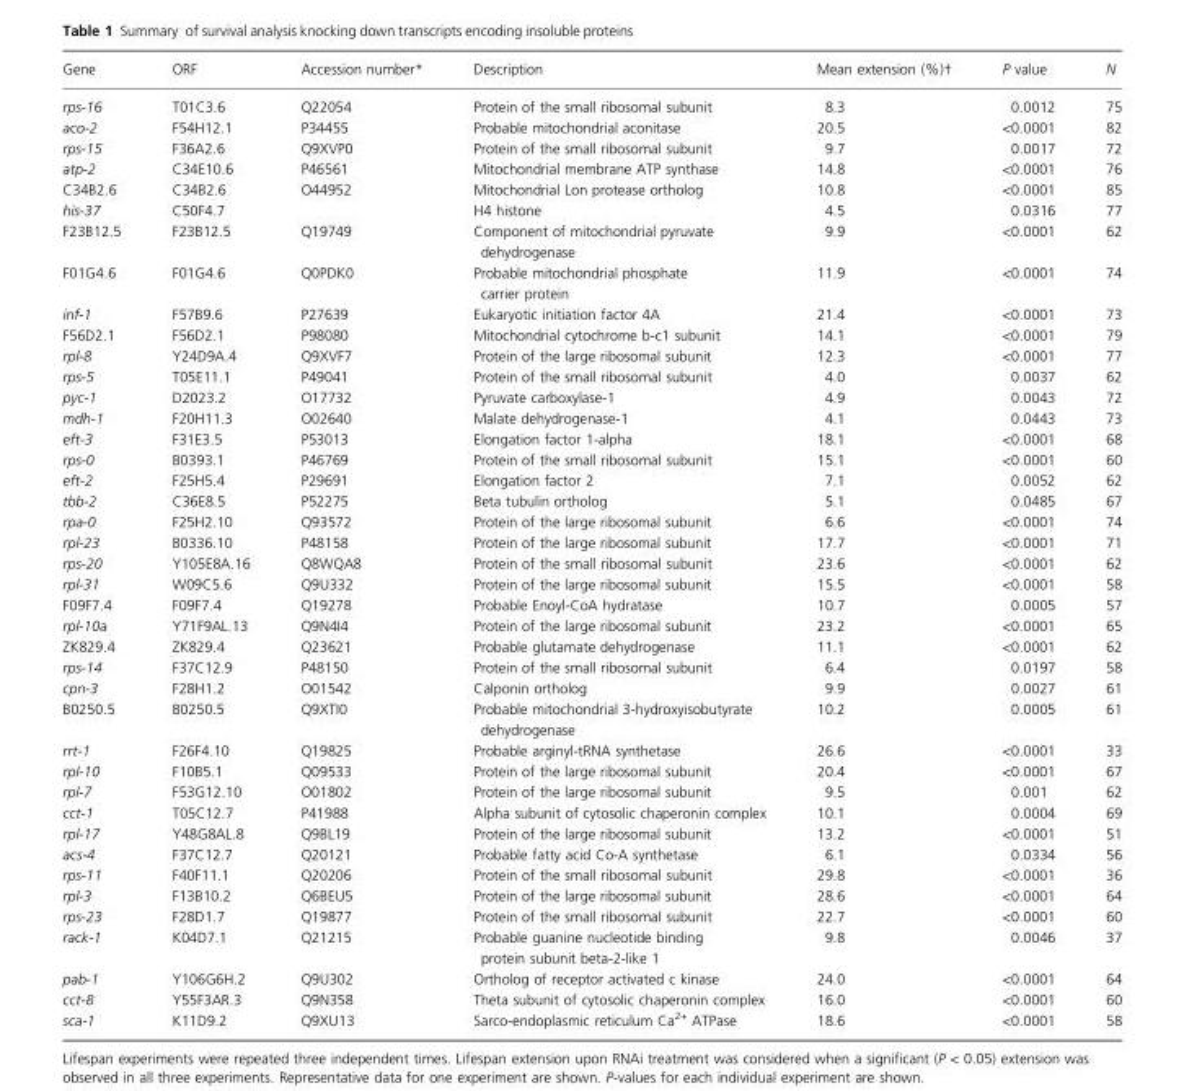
<table><thead><tr><td>Gene</td><td>ORF</td><td>Accession number*</td><td>Description</td><td>Mean extension (%)†</td><td>P value</td><td>N</td></tr></thead><tbody><tr><td>rps-16</td><td>T01C3.6</td><td>Q22054</td><td>Protein of the small ribosomal subunit</td><td>8.3</td><td>0.0012</td><td>75</td></tr><tr><td>aco-2</td><td>F54H12.1</td><td>P34455</td><td>Probable mitochondrial aconitase</td><td>20.5</td><td>&lt;0.0001</td><td>82</td></tr><tr><td>rps-15</td><td>F36A2.6</td><td>Q9XVP0</td><td>Protein of the small ribosomal subunit</td><td>9.7</td><td>0.0017</td><td>72</td></tr><tr><td>atp-2</td><td>C34E10.6</td><td>P46561</td><td>Mitochondrial membrane ATP synthase</td><td>14.8</td><td>&lt;0.0001</td><td>76</td></tr><tr><td>C34B2.6</td><td>C34B2.6</td><td>O44952</td><td>Mitochondrial Lon protease ortholog</td><td>10.8</td><td>&lt;0.0001</td><td>85</td></tr><tr><td>his-37</td><td>C50F4.7</td><td></td><td>H4 histone</td><td>4.5</td><td>0.0316</td><td>77</td></tr><tr><td>F23B12.5</td><td>F23B12.5</td><td>Q19749</td><td>Component of mitochondrial pyruvate dehydrogenase</td><td>9.9</td><td>&lt;0.0001</td><td>62</td></tr><tr><td>F01G4.6</td><td>F01G4.6</td><td>Q0PDK0</td><td>Probable mitochondrial phosphate carrier protein</td><td>11.9</td><td>&lt;0.0001</td><td>74</td></tr><tr><td>inf-1</td><td>F57B9.6</td><td>P27639</td><td>Eukaryotic initiation factor 4A</td><td>21.4</td><td>&lt;0.0001</td><td>73</td></tr><tr><td>F56D2.1</td><td>F56D2.1</td><td>P98080</td><td>Mitochondrial cytochrome b-c1 subunit</td><td>14.1</td><td>&lt;0.0001</td><td>79</td></tr><tr><td>rpl-8</td><td>Y24D9A.4</td><td>Q9XVF7</td><td>Protein of the large ribosomal subunit</td><td>12.3</td><td>&lt;0.0001</td><td>77</td></tr><tr><td>rps-5</td><td>T05E11.1</td><td>P49041</td><td>Protein of the small ribosomal subunit</td><td>4.0</td><td>0.0037</td><td>62</td></tr><tr><td>pyc-1</td><td>D2023.2</td><td>O17732</td><td>Pyruvate carboxylase-1</td><td>4.9</td><td>0.0043</td><td>72</td></tr><tr><td>mdh-1</td><td>F20H11.3</td><td>O02640</td><td>Malate dehydrogenase-1</td><td>4.1</td><td>0.0443</td><td>73</td></tr><tr><td>eft-3</td><td>F31E3.5</td><td>P53013</td><td>Elongation factor 1-alpha</td><td>18.1</td><td>&lt;0.0001</td><td>68</td></tr><tr><td>rps-0</td><td>B0393.1</td><td>P46769</td><td>Protein of the small ribosomal subunit</td><td>15.1</td><td>&lt;0.0001</td><td>60</td></tr><tr><td>eft-2</td><td>F25H5.4</td><td>P29691</td><td>Elongation factor 2</td><td>7.1</td><td>0.0052</td><td>62</td></tr><tr><td>tbb-2</td><td>C36E8.5</td><td>P52275</td><td>Beta tubulin ortholog</td><td>5.1</td><td>0.0485</td><td>67</td></tr><tr><td>rpa-0</td><td>F25H2.10</td><td>Q93572</td><td>Protein of the large ribosomal subunit</td><td>6.6</td><td>&lt;0.0001</td><td>74</td></tr><tr><td>rpl-23</td><td>B0336.10</td><td>P48158</td><td>Protein of the large ribosomal subunit</td><td>17.7</td><td>&lt;0.0001</td><td>71</td></tr><tr><td>rps-20</td><td>Y105E8A.16</td><td>Q8WQA8</td><td>Protein of the small ribosomal subunit</td><td>23.6</td><td>&lt;0.0001</td><td>62</td></tr><tr><td>rpl-31</td><td>W09C5.6</td><td>Q9U332</td><td>Protein of the large ribosomal subunit</td><td>15.5</td><td>&lt;0.0001</td><td>58</td></tr><tr><td>F09F7.4</td><td>F09F7.4</td><td>Q19278</td><td>Probable Enoyl-CoA hydratase</td><td>10.7</td><td>0.0005</td><td>57</td></tr><tr><td>rpl-10a</td><td>Y71F9AL.13</td><td>Q9N4I4</td><td>Protein of the large ribosomal subunit</td><td>23.2</td><td>&lt;0.0001</td><td>65</td></tr><tr><td>ZK829.4</td><td>ZK829.4</td><td>Q23621</td><td>Probable glutamate dehydrogenase</td><td>11.1</td><td>&lt;0.0001</td><td>62</td></tr><tr><td>rps-14</td><td>F37C12.9</td><td>P48150</td><td>Protein of the small ribosomal subunit</td><td>6.4</td><td>0.0197</td><td>58</td></tr><tr><td>cpn-3</td><td>F28H1.2</td><td>O01542</td><td>Calponin ortholog</td><td>9.9</td><td>0.0027</td><td>61</td></tr><tr><td>B0250.5</td><td>B0250.5</td><td>Q9XTI0</td><td>Probable mitochondrial 3-hydroxyisobutyrate dehydrogenase</td><td>10.2</td><td>0.0005</td><td>61</td></tr><tr><td>rrt-1</td><td>F26F4.10</td><td>Q19825</td><td>Probable arginyl-tRNA synthetase</td><td>26.6</td><td>&lt;0.0001</td><td>33</td></tr><tr><td>rpl-10</td><td>F10B5.1</td><td>Q09533</td><td>Protein of the large ribosomal subunit</td><td>20.4</td><td>&lt;0.0001</td><td>67</td></tr><tr><td>rpl-7</td><td>F53G12.10</td><td>O01802</td><td>Protein of the large ribosomal subunit</td><td>9.5</td><td>0.001</td><td>62</td></tr><tr><td>cct-1</td><td>T05C12.7</td><td>P41988</td><td>Alpha subunit of cytosolic chaperonin complex</td><td>10.1</td><td>0.0004</td><td>69</td></tr><tr><td>rpl-17</td><td>Y48G8AL.8</td><td>Q9BL19</td><td>Protein of the large ribosomal subunit</td><td>13.2</td><td>&lt;0.0001</td><td>51</td></tr><tr><td>acs-4</td><td>F37C12.7</td><td>Q20121</td><td>Probable fatty acid Co-A synthetase</td><td>6.1</td><td>0.0334</td><td>56</td></tr><tr><td>rps-11</td><td>F40F11.1</td><td>Q20206</td><td>Protein of the small ribosomal subunit</td><td>29.8</td><td>&lt;0.0001</td><td>36</td></tr><tr><td>rpl-3</td><td>F13B10.2</td><td>Q6BEU5</td><td>Protein of the large ribosomal subunit</td><td>28.6</td><td>&lt;0.0001</td><td>64</td></tr><tr><td>rps-23</td><td>F28D1.7</td><td>Q19877</td><td>Protein of the small ribosomal subunit</td><td>22.7</td><td>&lt;0.0001</td><td>60</td></tr><tr><td>rack-1</td><td>K04D7.1</td><td>Q21215</td><td>Probable guanine nucleotide binding protein subunit beta-2-like 1</td><td>9.8</td><td>0.0046</td><td>37</td></tr><tr><td>pab-1</td><td>Y106G6H.2</td><td>Q9U302</td><td>Ortholog of receptor activated c kinase</td><td>24.0</td><td>&lt;0.0001</td><td>64</td></tr><tr><td>cct-8</td><td>Y55F3AR.3</td><td>Q9N358</td><td>Theta subunit of cytosolic chaperonin complex</td><td>16.0</td><td>&lt;0.0001</td><td>60</td></tr><tr><td>sca-1</td><td>K11D9.2</td><td>Q9XU13</td><td>Sarco-endoplasmic reticulum Ca<sup>2+</sup> ATPase</td><td>18.6</td><td>&lt;0.0001</td><td>58</td></tr></tbody></table>